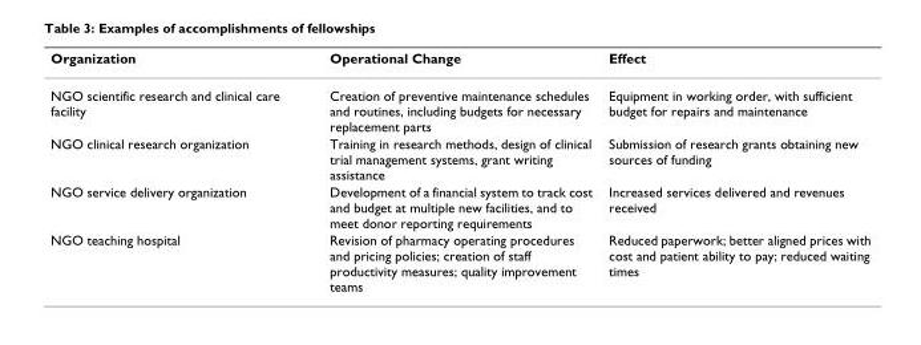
<table><thead><tr><td>Organization</td><td>Operational Change</td><td>Effect</td></tr></thead><tbody><tr><td>NGO scientific research and clinical care facility</td><td>Creation of preventive maintenance schedules and routines, including budgets for necessary replacement parts</td><td>Equipment in working order, with sufficient budget for repairs and maintenance</td></tr><tr><td>NGO clinical research organization</td><td>Training in research methods, design of clinical trial management systems, grant writing assistance</td><td>Submission of research grants obtaining new sources of funding</td></tr><tr><td>NGO service delivery organization</td><td>Development of a financial system to track cost and budget at multiple new facilities, and to meet donor reporting requirements</td><td>Increased services delivered and revenues received</td></tr><tr><td>NGO teaching hospital</td><td>Revision of pharmacy operating procedures and pricing policies; creation of staff productivity measures; quality improvement teams</td><td>Reduced paperwork; better aligned prices with cost and patient ability to pay; reduced waiting times</td></tr></tbody></table>